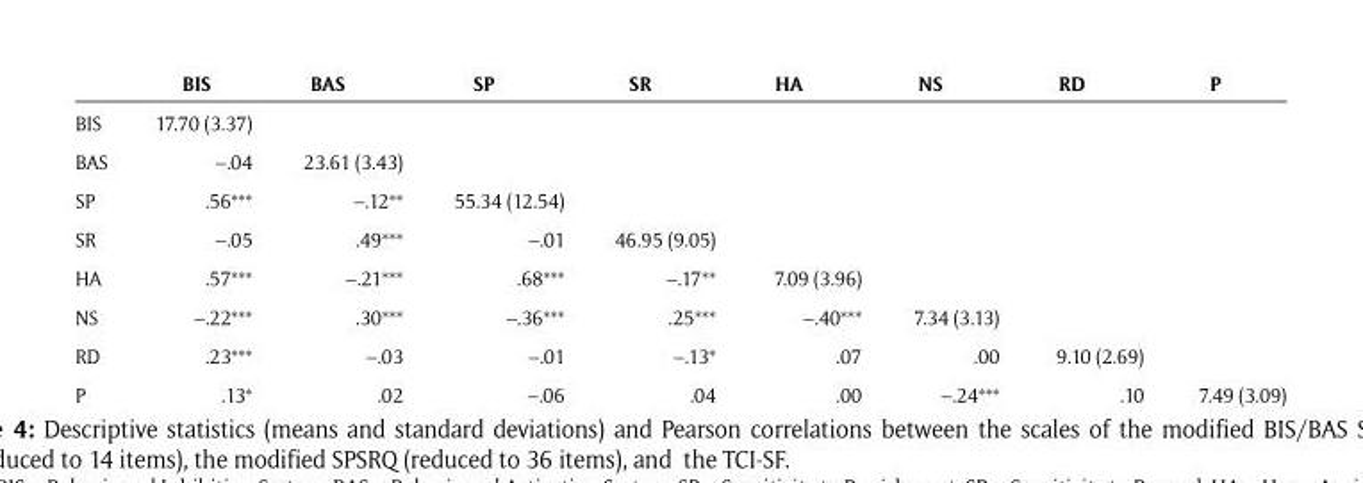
<table><thead><tr><td></td><td>BIS</td><td>BAS</td><td>SP</td><td>SR</td><td>HA</td><td>NS</td><td>RD</td><td>P</td></tr></thead><tbody><tr><td>BIS</td><td>17.70 (3.37)</td><td></td><td></td><td></td><td></td><td></td><td></td><td></td></tr><tr><td>BAS</td><td>–.04</td><td>23.61 (3.43)</td><td></td><td></td><td></td><td></td><td></td><td></td></tr><tr><td>SP</td><td>.56***</td><td>–.12**</td><td>55.34 (12.54)</td><td></td><td></td><td></td><td></td><td></td></tr><tr><td>SR</td><td>–.05</td><td>.49***</td><td>–.01</td><td>46.95 (9.05)</td><td></td><td></td><td></td><td></td></tr><tr><td>HA</td><td>.57***</td><td>–.21***</td><td>.68***</td><td>–.17**</td><td>7.09 (3.96)</td><td></td><td></td><td></td></tr><tr><td>NS</td><td>–.22***</td><td>.30***</td><td>–.36***</td><td>.25***</td><td>–.40***</td><td>7.34 (3.13)</td><td></td><td></td></tr><tr><td>RD</td><td>.23***</td><td>–.03</td><td>–.01</td><td>–.13*</td><td>.07</td><td>.00</td><td>9.10 (2.69)</td><td></td></tr><tr><td>P</td><td>.13*</td><td>.02</td><td>–.06</td><td>.04</td><td>.00</td><td>–.24***</td><td>.10</td><td>7.49 (3.09)</td></tr></tbody></table>